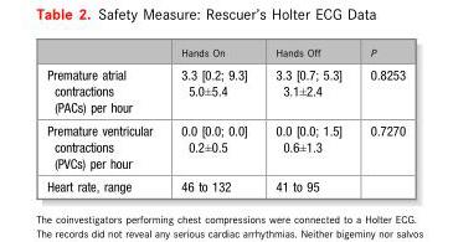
<table><thead><tr><td></td><td>Hands On</td><td>Hands Off</td><td>P</td></tr></thead><tbody><tr><td>Premature atrial contractions (PACs) per hour</td><td>3.3 [0.2; 9.3] 5.0±5.4</td><td>3.3 [0.7; 5.3] 3.1±2.4</td><td>0.8253</td></tr><tr><td>Premature ventricular contractions (PVCs) per hour</td><td>0.0 [0.0; 0.0] 0.2±0.5</td><td>0.0 [0.0; 1.5] 0.6±1.3</td><td>0.7270</td></tr><tr><td>Heart rate, range</td><td>46 to 132</td><td>41 to 95</td><td></td></tr></tbody></table>